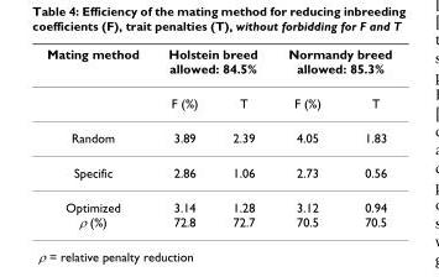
<table><thead><tr><td rowspan="2">Mating method</td><td colspan="2">Holstein breed allowed: 84.5%</td><td colspan="2">Normandy breed allowed: 85.3%</td></tr><tr><td>F (%)</td><td>T</td><td>F (%)</td><td>T</td></tr></thead><tbody><tr><td>Random</td><td>3.89</td><td>2.39</td><td>4.05</td><td>1.83</td></tr><tr><td>Specific</td><td>2.86</td><td>1.06</td><td>2.73</td><td>0.56</td></tr><tr><td>Optimized ρ (%)</td><td>3.14 72.8</td><td>1.28 72.7</td><td>3.12 70.5</td><td>0.94 70.5</td></tr></tbody></table>